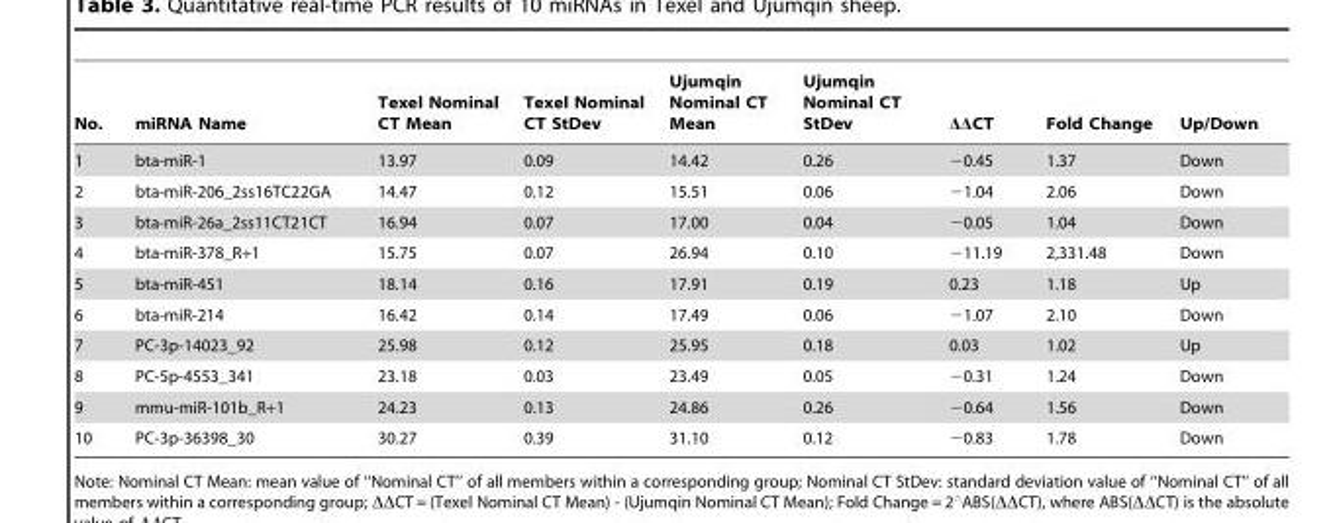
<table><thead><tr><td>No.</td><td>miRNA Name</td><td>Texel Nominal CT Mean</td><td>Texel Nominal CT StDev</td><td>Ujumqin Nominal CT Mean</td><td>Ujumqin Nominal CT StDev</td><td>ΔΔCT</td><td>Fold Change</td><td>Up/Down</td></tr></thead><tbody><tr><td>1</td><td>bta-miR-1</td><td>13.97</td><td>0.09</td><td>14.42</td><td>0.26</td><td>−0.45</td><td>1.37</td><td>Down</td></tr><tr><td>2</td><td>bta-miR-206_2ss16TC22GA</td><td>14.47</td><td>0.12</td><td>15.51</td><td>0.06</td><td>−1.04</td><td>2.06</td><td>Down</td></tr><tr><td>3</td><td>bta-miR-26a_2ss11CT21CT</td><td>16.94</td><td>0.07</td><td>17.00</td><td>0.04</td><td>−0.05</td><td>1.04</td><td>Down</td></tr><tr><td>4</td><td>bta-miR-378_R+1</td><td>15.75</td><td>0.07</td><td>26.94</td><td>0.10</td><td>−11.19</td><td>2,331.48</td><td>Down</td></tr><tr><td>5</td><td>bta-miR-451</td><td>18.14</td><td>0.16</td><td>17.91</td><td>0.19</td><td>0.23</td><td>1.18</td><td>Up</td></tr><tr><td>6</td><td>bta-miR-214</td><td>16.42</td><td>0.14</td><td>17.49</td><td>0.06</td><td>−1.07</td><td>2.10</td><td>Down</td></tr><tr><td>7</td><td>PC-3p-14023_92</td><td>25.98</td><td>0.12</td><td>25.95</td><td>0.18</td><td>0.03</td><td>1.02</td><td>Up</td></tr><tr><td>8</td><td>PC-5p-4553_341</td><td>23.18</td><td>0.03</td><td>23.49</td><td>0.05</td><td>−0.31</td><td>1.24</td><td>Down</td></tr><tr><td>9</td><td>mmu-miR-101b_R+1</td><td>24.23</td><td>0.13</td><td>24.86</td><td>0.26</td><td>−0.64</td><td>1.56</td><td>Down</td></tr><tr><td>10</td><td>PC-3p-36398_30</td><td>30.27</td><td>0.39</td><td>31.10</td><td>0.12</td><td>−0.83</td><td>1.78</td><td>Down</td></tr></tbody></table>